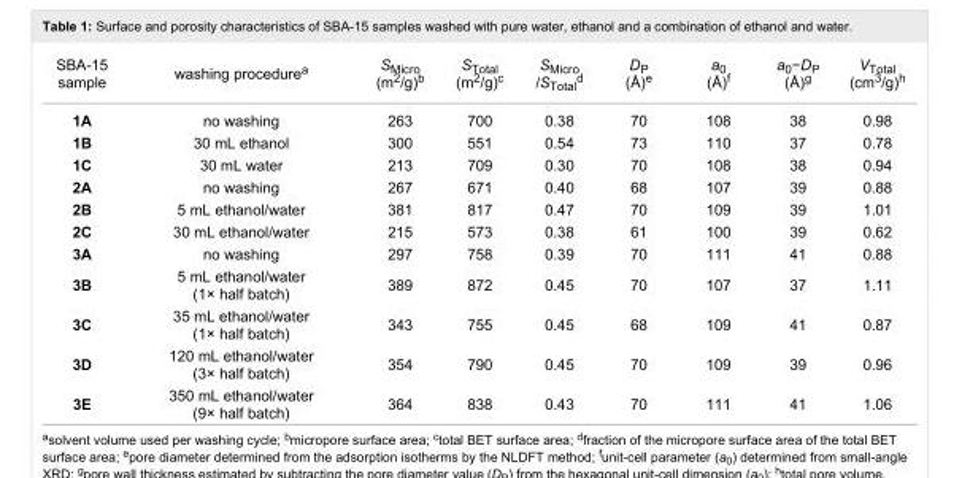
<table><tbody><tr><td>SBA-15 sample</td><td>washing procedure<sup>a</sup></td><td>S<sub>Micro</sub> (m<sup>2</sup>/g)<sup>b</sup></td><td>S<sub>Total</sub> (m<sup>2</sup>/g)<sup>c</sup></td><td>S<sub>Micro</sub> /S<sub>Total</sub><sup>d</sup></td><td>D<sub>P</sub> (Å)<sup>e</sup></td><td>a<sub>0</sub> (Å)<sup>f</sup></td><td>a<sub>0</sub>−D<sub>P</sub> (Å)<sup>g</sup></td><td>V<sub>Total</sub> (cm<sup>3</sup>/g)<sup>h</sup></td></tr><tr><td>1A</td><td>no washing</td><td>263</td><td>700</td><td>0.38</td><td>70</td><td>108</td><td>38</td><td>0.98</td></tr><tr><td>1B</td><td>30 mL ethanol</td><td>300</td><td>551</td><td>0.54</td><td>73</td><td>110</td><td>37</td><td>0.78</td></tr><tr><td>1C</td><td>30 mL water</td><td>213</td><td>709</td><td>0.30</td><td>70</td><td>108</td><td>38</td><td>0.94</td></tr><tr><td>2A</td><td>no washing</td><td>267</td><td>671</td><td>0.40</td><td>68</td><td>107</td><td>39</td><td>0.88</td></tr><tr><td>2B</td><td>5 mL ethanol/water</td><td>381</td><td>817</td><td>0.47</td><td>70</td><td>109</td><td>39</td><td>1.01</td></tr><tr><td>2C</td><td>30 mL ethanol/water</td><td>215</td><td>573</td><td>0.38</td><td>61</td><td>100</td><td>39</td><td>0.62</td></tr><tr><td>3A</td><td>no washing</td><td>297</td><td>758</td><td>0.39</td><td>70</td><td>111</td><td>41</td><td>0.88</td></tr><tr><td>3B</td><td>5 mL ethanol/water (1× half batch)</td><td>389</td><td>872</td><td>0.45</td><td>70</td><td>107</td><td>37</td><td>1.11</td></tr><tr><td>3C</td><td>35 mL ethanol/water (1× half batch)</td><td>343</td><td>755</td><td>0.45</td><td>68</td><td>109</td><td>41</td><td>0.87</td></tr><tr><td>3D</td><td>120 mL ethanol/water (3× half batch)</td><td>354</td><td>790</td><td>0.45</td><td>70</td><td>109</td><td>39</td><td>0.96</td></tr><tr><td>3E</td><td>350 mL ethanol/water (9× half batch)</td><td>364</td><td>838</td><td>0.43</td><td>70</td><td>111</td><td>41</td><td>1.06</td></tr></tbody></table>